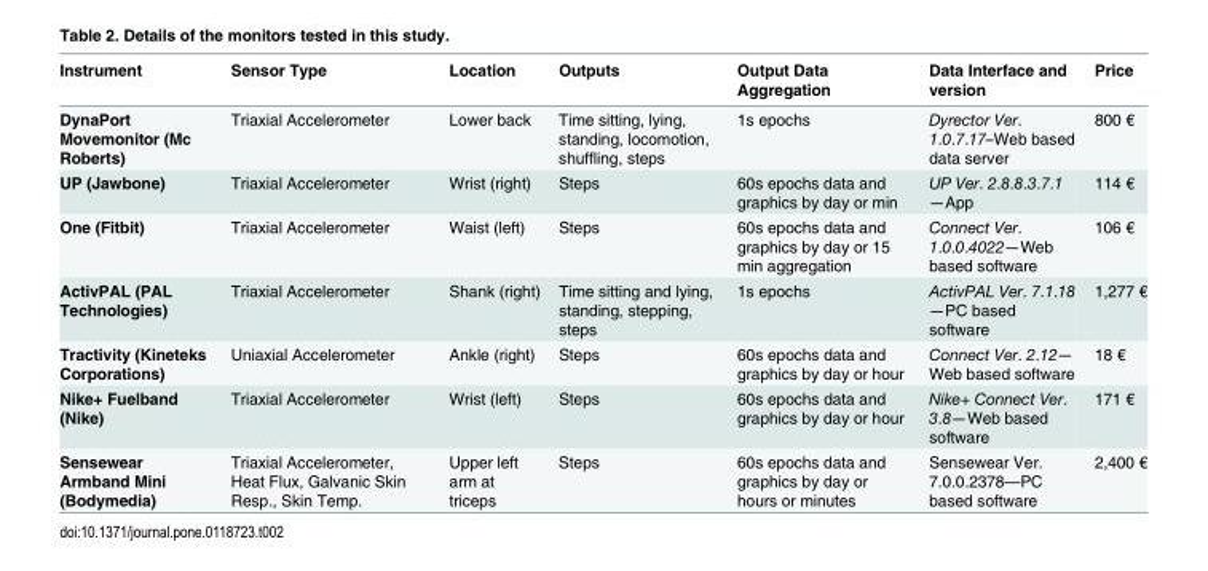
<table><thead><tr><td>Instrument</td><td>Sensor Type</td><td>Location</td><td>Outputs</td><td>Output Data Aggregation</td><td>Data Interface and version</td><td>Price</td></tr></thead><tbody><tr><td>DynaPort Movemonitor (Mc Roberts)</td><td>Triaxial Accelerometer</td><td>Lower back</td><td>Time sitting, lying, standing, locomotion, shuffling, steps</td><td>1s epochs</td><td>Dyrector Ver. 1.0.7.17–Web based data server</td><td>800 €</td></tr><tr><td>UP (Jawbone)</td><td>Triaxial Accelerometer</td><td>Wrist (right)</td><td>Steps</td><td>60s epochs data and graphics by day or min</td><td>UP Ver. 2.8.8.3.7.1 —App</td><td>114 €</td></tr><tr><td>One (Fitbit)</td><td>Triaxial Accelerometer</td><td>Waist (left)</td><td>Steps</td><td>60s epochs data and graphics by day or 15 min aggregation</td><td>Connect Ver. 1.0.0.4022—Web based software</td><td>106 €</td></tr><tr><td>ActivPAL (PAL Technologies)</td><td>Triaxial Accelerometer</td><td>Shank (right)</td><td>Time sitting and lying, standing, stepping, steps</td><td>1s epochs</td><td>ActivPAL Ver. 7.1.18 —PC based software</td><td>1,277 €</td></tr><tr><td>Tractivity (Kineteks Corporations)</td><td>Uniaxial Accelerometer</td><td>Ankle (right)</td><td>Steps</td><td>60s epochs data and graphics by day or hour</td><td>Connect Ver. 2.12— Web based software</td><td>18 €</td></tr><tr><td>Nike+ Fuelband (Nike)</td><td>Triaxial Accelerometer</td><td>Wrist (left)</td><td>Steps</td><td>60s epochs data and graphics by day or hour</td><td>Nike+ Connect Ver. 3.8—Web based software</td><td>171 €</td></tr><tr><td>Sensewear Armband Mini (Bodymedia)</td><td>Triaxial Accelerometer, Heat Flux, Galvanic Skin Resp., Skin Temp.</td><td>Upper left arm at triceps</td><td>Steps</td><td>60s epochs data and graphics by day or hours or minutes</td><td>Sensewear Ver. 7.0.0.2378—PC based software</td><td>2,400 €</td></tr></tbody></table>